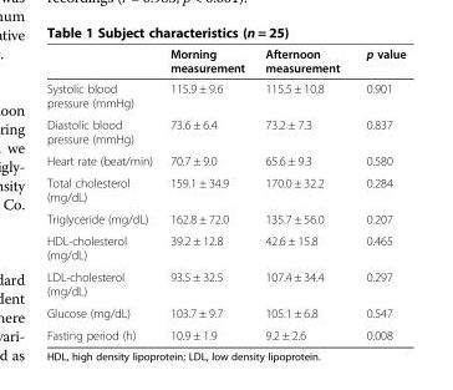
<table><thead><tr><td></td><td>Morning measurement</td><td>Afternoon measurement</td><td>p value</td></tr></thead><tbody><tr><td>Systolic blood pressure (mmHg)</td><td>115.9 ± 9.6</td><td>115.5 ± 10.8</td><td>0.901</td></tr><tr><td>Diastolic blood pressure (mmHg)</td><td>73.6 ± 6.4</td><td>73.2 ± 7.3</td><td>0.837</td></tr><tr><td>Heart rate (beat/min)</td><td>70.7 ± 9.0</td><td>65.6 ± 9.3</td><td>0.580</td></tr><tr><td>Total cholesterol (mg/dL)</td><td>159.1 ± 34.9</td><td>170.0 ± 32.2</td><td>0.284</td></tr><tr><td>Triglyceride (mg/dL)</td><td>162.8 ± 72.0</td><td>135.7 ± 56.0</td><td>0.207</td></tr><tr><td>HDL-cholesterol (mg/dL)</td><td>39.2 ± 12.8</td><td>42.6 ± 15.8</td><td>0.465</td></tr><tr><td>LDL-cholesterol (mg/dL)</td><td>93.5 ± 32.5</td><td>107.4 ± 34.4</td><td>0.297</td></tr><tr><td>Glucose (mg/dL)</td><td>103.7 ± 9.7</td><td>105.1 ± 6.8</td><td>0.547</td></tr><tr><td>Fasting period (h)</td><td>10.9 ± 1.9</td><td>9.2 ± 2.6</td><td>0.008</td></tr></tbody></table>